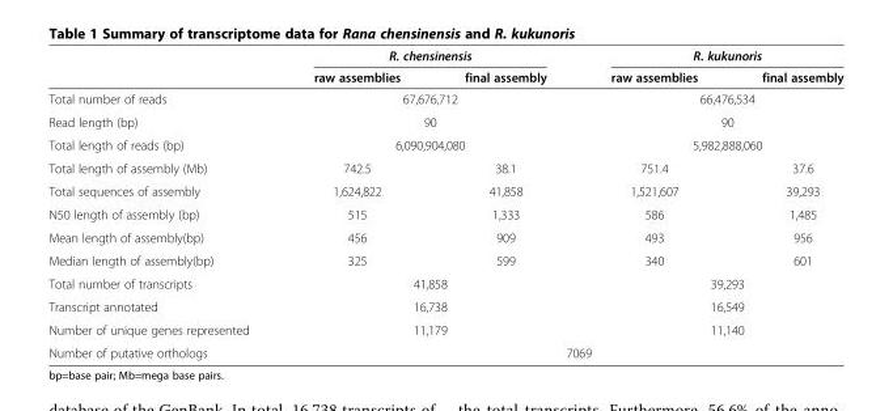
<table><thead><tr><td rowspan="2"></td><td colspan="2">R. chensinensis</td><td colspan="2">R. kukunoris</td></tr><tr><td>raw assemblies</td><td>final assembly</td><td>raw assemblies</td><td>final assembly</td></tr></thead><tbody><tr><td>Total number of reads</td><td colspan="2">67,676,712</td><td colspan="2">66,476,534</td></tr><tr><td>Read length (bp)</td><td colspan="2">90</td><td colspan="2">90</td></tr><tr><td>Total length of reads (bp)</td><td colspan="2">6,090,904,080</td><td colspan="2">5,982,888,060</td></tr><tr><td>Total length of assembly (Mb)</td><td>742.5</td><td>38.1</td><td>751.4</td><td>37.6</td></tr><tr><td>Total sequences of assembly</td><td>1,624,822</td><td>41,858</td><td>1,521,607</td><td>39,293</td></tr><tr><td>N50 length of assembly (bp)</td><td>515</td><td>1,333</td><td>586</td><td>1,485</td></tr><tr><td>Mean length of assembly(bp)</td><td>456</td><td>909</td><td>493</td><td>956</td></tr><tr><td>Median length of assembly(bp)</td><td>325</td><td>599</td><td>340</td><td>601</td></tr><tr><td>Total number of transcripts</td><td colspan="2">41,858</td><td colspan="2">39,293</td></tr><tr><td>Transcript annotated</td><td colspan="2">16,738</td><td colspan="2">16,549</td></tr><tr><td>Number of unique genes represented</td><td colspan="2">11,179</td><td colspan="2">11,140</td></tr><tr><td>Number of putative orthologs</td><td colspan="4">7069</td></tr></tbody></table>